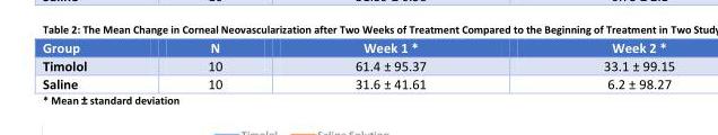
<table><thead><tr><td>Group</td><td>N</td><td>Week 1 *</td><td>Week 2 *</td></tr></thead><tbody><tr><td>Timolol</td><td>10</td><td>61.4 ± 95.37</td><td>33.1 ± 99.15</td></tr><tr><td>Saline</td><td>10</td><td>31.6 ± 41.61</td><td>6.2 ± 98.27</td></tr></tbody></table>